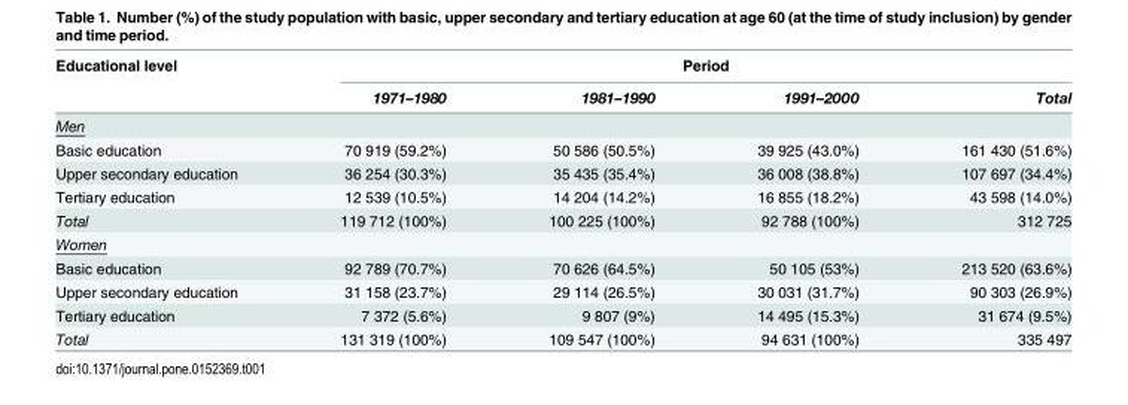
<table><thead><tr><td rowspan="2">Educational level</td><td colspan="4">Period</td></tr><tr><td>1971–1980</td><td>1981–1990</td><td>1991–2000</td><td>Total</td></tr></thead><tbody><tr><td colspan="5">Men</td></tr><tr><td>Basic education</td><td>70 919 (59.2%)</td><td>50 586 (50.5%)</td><td>39 925 (43.0%)</td><td>161 430 (51.6%)</td></tr><tr><td>Upper secondary education</td><td>36 254 (30.3%)</td><td>35 435 (35.4%)</td><td>36 008 (38.8%)</td><td>107 697 (34.4%)</td></tr><tr><td>Tertiary education</td><td>12 539 (10.5%)</td><td>14 204 (14.2%)</td><td>16 855 (18.2%)</td><td>43 598 (14.0%)</td></tr><tr><td>Total</td><td>119 712 (100%)</td><td>100 225 (100%)</td><td>92 788 (100%)</td><td>312 725</td></tr><tr><td colspan="5">Women</td></tr><tr><td>Basic education</td><td>92 789 (70.7%)</td><td>70 626 (64.5%)</td><td>50 105 (53%)</td><td>213 520 (63.6%)</td></tr><tr><td>Upper secondary education</td><td>31 158 (23.7%)</td><td>29 114 (26.5%)</td><td>30 031 (31.7%)</td><td>90 303 (26.9%)</td></tr><tr><td>Tertiary education</td><td>7 372 (5.6%)</td><td>9 807 (9%)</td><td>14 495 (15.3%)</td><td>31 674 (9.5%)</td></tr><tr><td>Total</td><td>131 319 (100%)</td><td>109 547 (100%)</td><td>94 631 (100%)</td><td>335 497</td></tr></tbody></table>